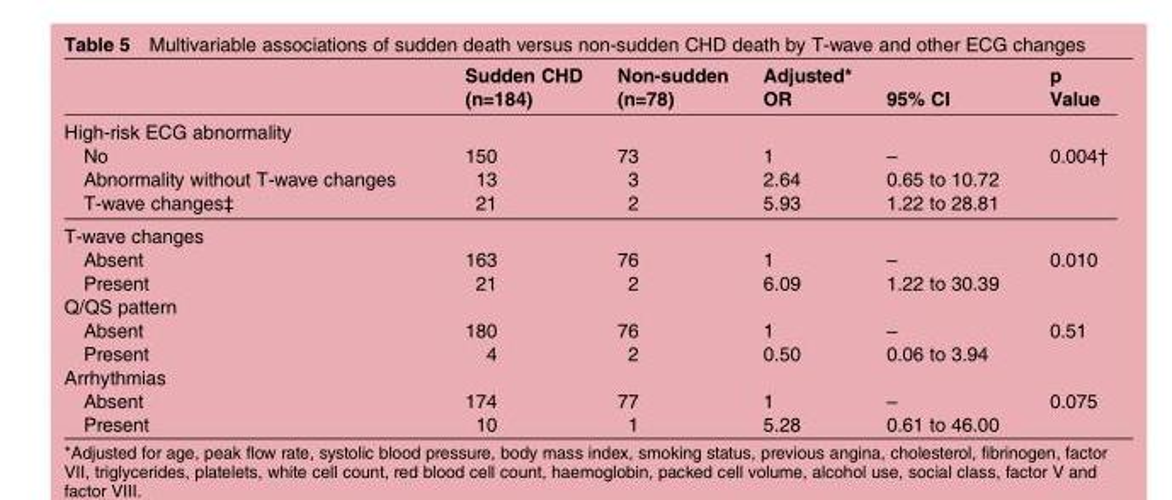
<table><thead><tr><td></td><td>Sudden CHD (n=184)</td><td>Non-sudden (n=78)</td><td>Adjusted* OR</td><td>95% CI</td><td>p Value</td></tr></thead><tbody><tr><td colspan="6">High-risk ECG abnormality</td></tr><tr><td>No</td><td>150</td><td>73</td><td>1</td><td>–</td><td>0.004†</td></tr><tr><td>Abnormality without T-wave changes</td><td>13</td><td>3</td><td>2.64</td><td>0.65 to 10.72</td><td rowspan="2"></td></tr><tr><td>T-wave changes‡</td><td>21</td><td>2</td><td>5.93</td><td>1.22 to 28.81</td></tr><tr><td colspan="6">T-wave changes</td></tr><tr><td>Absent</td><td>163</td><td>76</td><td>1</td><td>–</td><td rowspan="2">0.010</td></tr><tr><td>Present</td><td>21</td><td>2</td><td>6.09</td><td>1.22 to 30.39</td></tr><tr><td colspan="6">Q/QS pattern</td></tr><tr><td>Absent</td><td>180</td><td>76</td><td>1</td><td>–</td><td rowspan="2">0.51</td></tr><tr><td>Present</td><td>4</td><td>2</td><td>0.50</td><td>0.06 to 3.94</td></tr><tr><td colspan="6">Arrhythmias</td></tr><tr><td>Absent</td><td>174</td><td>77</td><td>1</td><td>–</td><td rowspan="2">0.075</td></tr><tr><td>Present</td><td>10</td><td>1</td><td>5.28</td><td>0.61 to 46.00</td></tr></tbody></table>